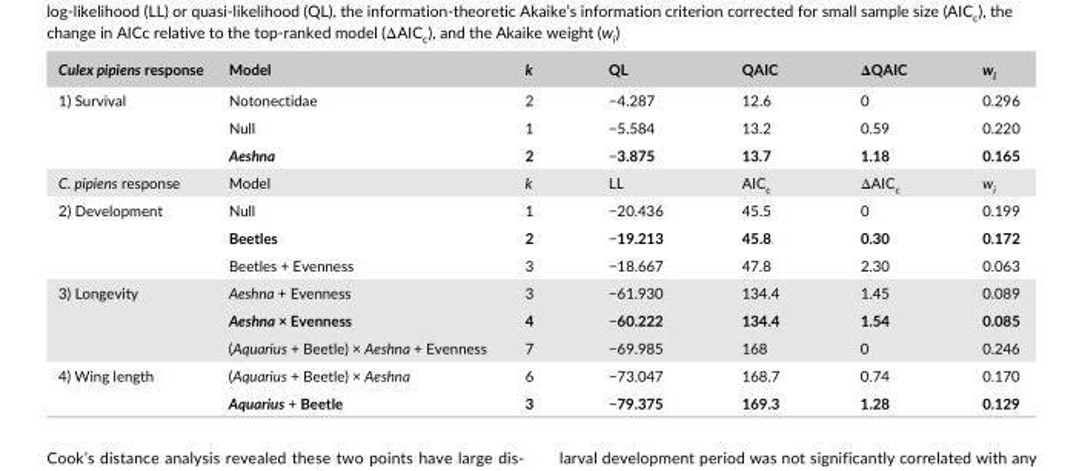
<table><thead><tr><td>Culex pipiens response</td><td>Model</td><td>k</td><td>QL</td><td>QAIC</td><td>ΔQAIC</td><td>w<sub>i</sub></td></tr></thead><tbody><tr><td rowspan="3">1) Survival</td><td>Notonectidae</td><td>2</td><td>−4.287</td><td>12.6</td><td>0</td><td>0.296</td></tr><tr><td>Null</td><td>1</td><td>−5.584</td><td>13.2</td><td>0.59</td><td>0.220</td></tr><tr><td>Aeshna</td><td>2</td><td>−3.875</td><td>13.7</td><td>1.18</td><td>0.165</td></tr><tr><td>C. pipiens response</td><td>Model</td><td>k</td><td>LL</td><td>AIC<sub>c</sub></td><td>ΔAIC<sub>c</sub></td><td>w<sub>i</sub></td></tr><tr><td rowspan="3">2) Development</td><td>Null</td><td>1</td><td>−20.436</td><td>45.5</td><td>0</td><td>0.199</td></tr><tr><td>Beetles</td><td>2</td><td>−19.213</td><td>45.8</td><td>0.30</td><td>0.172</td></tr><tr><td>Beetles + Evenness</td><td>3</td><td>−18.667</td><td>47.8</td><td>2.30</td><td>0.063</td></tr><tr><td rowspan="3">3) Longevity</td><td>Aeshna + Evenness</td><td>3</td><td>−61.930</td><td>134.4</td><td>1.45</td><td>0.089</td></tr><tr><td>Aeshna × Evenness</td><td>4</td><td>−60.222</td><td>134.4</td><td>1.54</td><td>0.085</td></tr><tr><td>(Aquarius + Beetle) × Aeshna + Evenness</td><td>7</td><td>−69.985</td><td>168</td><td>0</td><td>0.246</td></tr><tr><td rowspan="2">4) Wing length</td><td>(Aquarius + Beetle) × Aeshna</td><td>6</td><td>−73.047</td><td>168.7</td><td>0.74</td><td>0.170</td></tr><tr><td>Aquarius + Beetle</td><td>3</td><td>−79.375</td><td>169.3</td><td>1.28</td><td>0.129</td></tr></tbody></table>